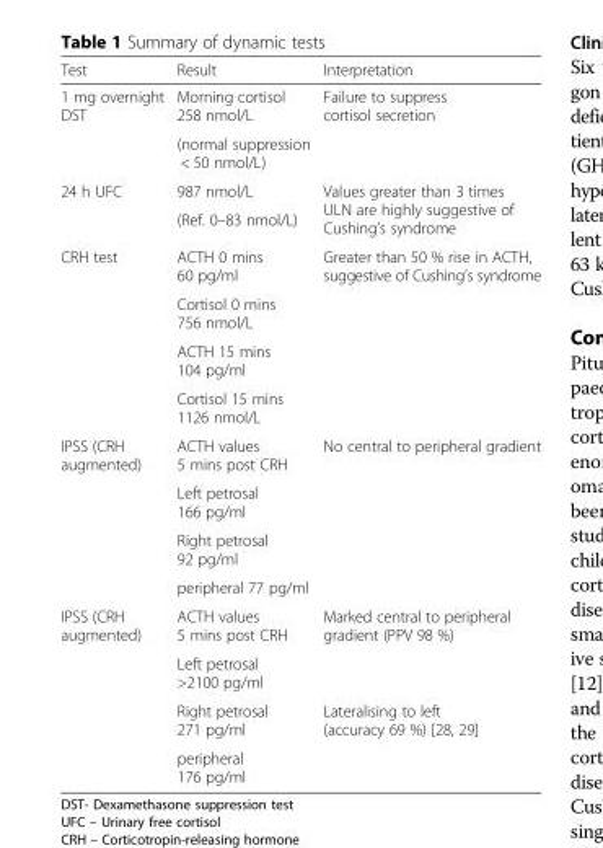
<table><thead><tr><td>Test</td><td>Result</td><td>Interpretation</td></tr></thead><tbody><tr><td rowspan="2">1 mg overnight DST</td><td>Morning cortisol 258 nmol/L</td><td rowspan="2">Failure to suppress cortisol secretion</td></tr><tr><td>(normal suppression &lt; 50 nmol/L)</td></tr><tr><td rowspan="2">24 h UFC</td><td>987 nmol/L</td><td rowspan="2">Values greater than 3 times ULN are highly suggestive of Cushing’s syndrome</td></tr><tr><td>(Ref. 0–83 nmol/L)</td></tr><tr><td rowspan="4">CRH test</td><td>ACTH 0 mins 60 pg/ml</td><td rowspan="4">Greater than 50 % rise in ACTH, suggestive of Cushing’s syndrome</td></tr><tr><td>Cortisol 0 mins 756 nmol/L</td></tr><tr><td>ACTH 15 mins 104 pg/ml</td></tr><tr><td>Cortisol 15 mins 1126 nmol/L</td></tr><tr><td rowspan="4">IPSS (CRH augmented)</td><td>ACTH values 5 mins post CRH</td><td rowspan="4">No central to peripheral gradient</td></tr><tr><td>Left petrosal 166 pg/ml</td></tr><tr><td>Right petrosal 92 pg/ml</td></tr><tr><td>peripheral 77 pg/ml</td></tr><tr><td rowspan="4">IPSS (CRH augmented)</td><td>ACTH values 5 mins post CRH</td><td rowspan="2">Marked central to peripheral gradient (PPV 98 %)</td></tr><tr><td>Left petrosal &gt;2100 pg/ml</td></tr><tr><td>Right petrosal 271 pg/ml</td><td rowspan="2">Lateralising to left (accuracy 69 %) [28, 29]</td></tr><tr><td>peripheral 176 pg/ml</td></tr></tbody></table>